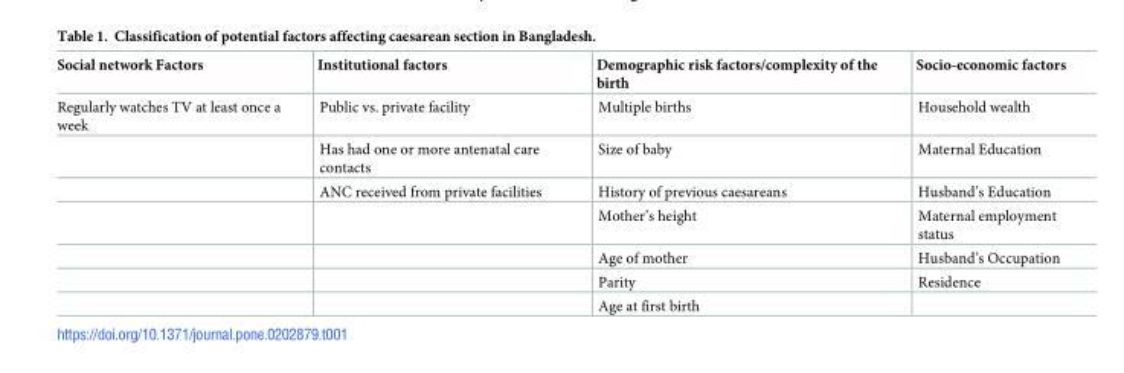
<table><thead><tr><td>Social network Factors</td><td>Institutional factors</td><td>Demographic risk factors/complexity of the birth</td><td>Socio-economic factors</td></tr></thead><tbody><tr><td rowspan="7">Regularly watches TV at least once a week</td><td>Public vs. private facility</td><td>Multiple births</td><td>Household wealth</td></tr><tr><td>Has had one or more antenatal care contacts</td><td>Size of baby</td><td>Maternal Education</td></tr><tr><td>ANC received from private facilities</td><td>History of previous caesareans</td><td>Husband’s Education</td></tr><tr><td></td><td>Mother’s height</td><td>Maternal employment status</td></tr><tr><td></td><td>Age of mother</td><td>Husband’s Occupation</td></tr><tr><td></td><td>Parity</td><td>Residence</td></tr><tr><td></td><td>Age at first birth</td><td></td></tr></tbody></table>